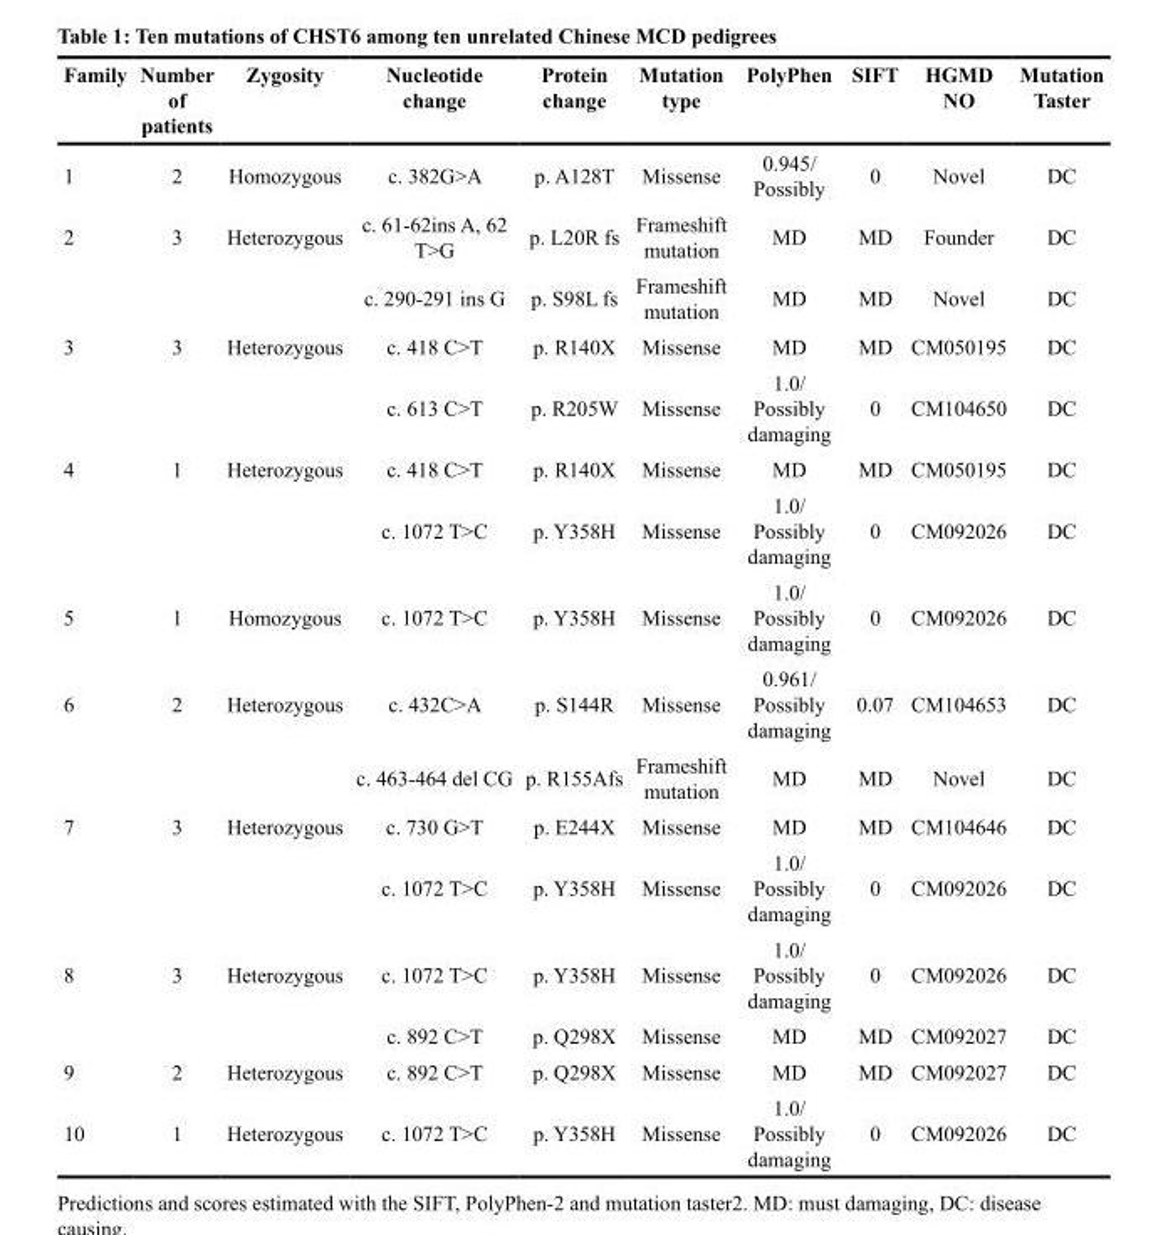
<table><thead><tr><td>Family</td><td>Number of patients</td><td>Zygosity</td><td>Nucleotide change</td><td>Protein change</td><td>Mutation type</td><td>PolyPhen</td><td>SIFT</td><td>HGMD NO</td><td>Mutation Taster</td></tr></thead><tbody><tr><td>1</td><td>2</td><td>Homozygous</td><td>c. 382G&gt;A</td><td>p. A128T</td><td>Missense</td><td>0.945/ Possibly</td><td>0</td><td>Novel</td><td>DC</td></tr><tr><td rowspan="2">2</td><td>3</td><td>Heterozygous</td><td>c. 61-62ins A, 62 T&gt;G</td><td>p. L20R fs</td><td>Frameshift mutation</td><td>MD</td><td>MD</td><td>Founder</td><td>DC</td></tr><tr><td></td><td></td><td>c. 290-291 ins G</td><td>p. S98L fs</td><td>Frameshift mutation</td><td>MD</td><td>MD</td><td>Novel</td><td>DC</td></tr><tr><td rowspan="2">3</td><td>3</td><td>Heterozygous</td><td>c. 418 C&gt;T</td><td>p. R140X</td><td>Missense</td><td>MD</td><td>MD</td><td>CM050195</td><td>DC</td></tr><tr><td></td><td></td><td>c. 613 C&gt;T</td><td>p. R205W</td><td>Missense</td><td>1.0/ Possibly damaging</td><td>0</td><td>CM104650</td><td>DC</td></tr><tr><td rowspan="2">4</td><td>1</td><td>Heterozygous</td><td>c. 418 C&gt;T</td><td>p. R140X</td><td>Missense</td><td>MD</td><td>MD</td><td>CM050195</td><td>DC</td></tr><tr><td></td><td></td><td>c. 1072 T&gt;C</td><td>p. Y358H</td><td>Missense</td><td>1.0/ Possibly damaging</td><td>0</td><td>CM092026</td><td>DC</td></tr><tr><td>5</td><td>1</td><td>Homozygous</td><td>c. 1072 T&gt;C</td><td>p. Y358H</td><td>Missense</td><td>1.0/ Possibly damaging</td><td>0</td><td>CM092026</td><td>DC</td></tr><tr><td rowspan="2">6</td><td>2</td><td>Heterozygous</td><td>c. 432C&gt;A</td><td>p. S144R</td><td>Missense</td><td>0.961/ Possibly damaging</td><td>0.07</td><td>CM104653</td><td>DC</td></tr><tr><td></td><td></td><td>c. 463-464 del CG</td><td>p. R155Afs</td><td>Frameshift mutation</td><td>MD</td><td>MD</td><td>Novel</td><td>DC</td></tr><tr><td rowspan="2">7</td><td>3</td><td>Heterozygous</td><td>c. 730 G&gt;T</td><td>p. E244X</td><td>Missense</td><td>MD</td><td>MD</td><td>CM104646</td><td>DC</td></tr><tr><td></td><td></td><td>c. 1072 T&gt;C</td><td>p. Y358H</td><td>Missense</td><td>1.0/ Possibly damaging</td><td>0</td><td>CM092026</td><td>DC</td></tr><tr><td rowspan="2">8</td><td>3</td><td>Heterozygous</td><td>c. 1072 T&gt;C</td><td>p. Y358H</td><td>Missense</td><td>1.0/ Possibly damaging</td><td>0</td><td>CM092026</td><td>DC</td></tr><tr><td></td><td></td><td>c. 892 C&gt;T</td><td>p. Q298X</td><td>Missense</td><td>MD</td><td>MD</td><td>CM092027</td><td>DC</td></tr><tr><td>9</td><td>2</td><td>Heterozygous</td><td>c. 892 C&gt;T</td><td>p. Q298X</td><td>Missense</td><td>MD</td><td>MD</td><td>CM092027</td><td>DC</td></tr><tr><td>10</td><td>1</td><td>Heterozygous</td><td>c. 1072 T&gt;C</td><td>p. Y358H</td><td>Missense</td><td>1.0/ Possibly damaging</td><td>0</td><td>CM092026</td><td>DC</td></tr></tbody></table>